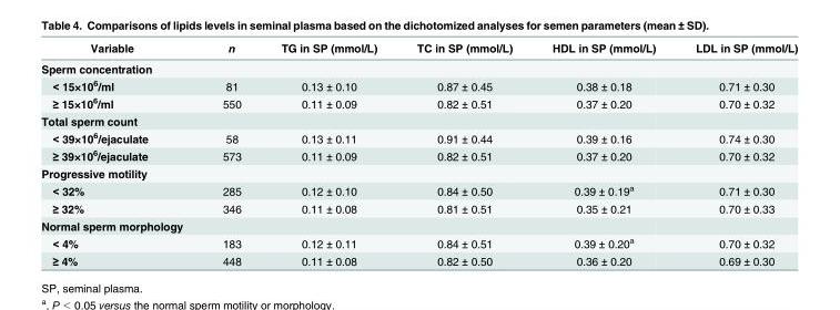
<table><thead><tr><td>Variable</td><td>n</td><td>TG in SP (mmol/L)</td><td>TC in SP (mmol/L)</td><td>HDL in SP (mmol/L)</td><td>LDL in SP (mmol/L)</td></tr></thead><tbody><tr><td colspan="6">Sperm concentration</td></tr><tr><td>&lt; 15×10<sup>6</sup>/ml</td><td>81</td><td>0.13 ± 0.10</td><td>0.87 ± 0.45</td><td>0.38 ± 0.18</td><td>0.71 ± 0.30</td></tr><tr><td>≥ 15×10<sup>6</sup>/ml</td><td>550</td><td>0.11 ± 0.09</td><td>0.82 ± 0.51</td><td>0.37 ± 0.20</td><td>0.70 ± 0.32</td></tr><tr><td colspan="6">Total sperm count</td></tr><tr><td>&lt; 39×10<sup>6</sup>/ejaculate</td><td>58</td><td>0.13 ± 0.11</td><td>0.91 ± 0.44</td><td>0.39 ± 0.16</td><td>0.74 ± 0.30</td></tr><tr><td>≥ 39×10<sup>6</sup>/ejaculate</td><td>573</td><td>0.11 ± 0.09</td><td>0.82 ± 0.51</td><td>0.37 ± 0.20</td><td>0.70 ± 0.32</td></tr><tr><td colspan="6">Progressive motility</td></tr><tr><td>&lt; 32%</td><td>285</td><td>0.12 ± 0.10</td><td>0.84 ± 0.50</td><td>0.39 ± 0.19<sup>a</sup></td><td>0.71 ± 0.30</td></tr><tr><td>≥ 32%</td><td>346</td><td>0.11 ± 0.08</td><td>0.81 ± 0.51</td><td>0.35 ± 0.21</td><td>0.70 ± 0.33</td></tr><tr><td colspan="6">Normal sperm morphology</td></tr><tr><td>&lt; 4%</td><td>183</td><td>0.12 ± 0.11</td><td>0.84 ± 0.51</td><td>0.39 ± 0.20<sup>a</sup></td><td>0.70 ± 0.32</td></tr><tr><td>≥ 4%</td><td>448</td><td>0.11 ± 0.08</td><td>0.82 ± 0.50</td><td>0.36 ± 0.20</td><td>0.69 ± 0.30</td></tr></tbody></table>